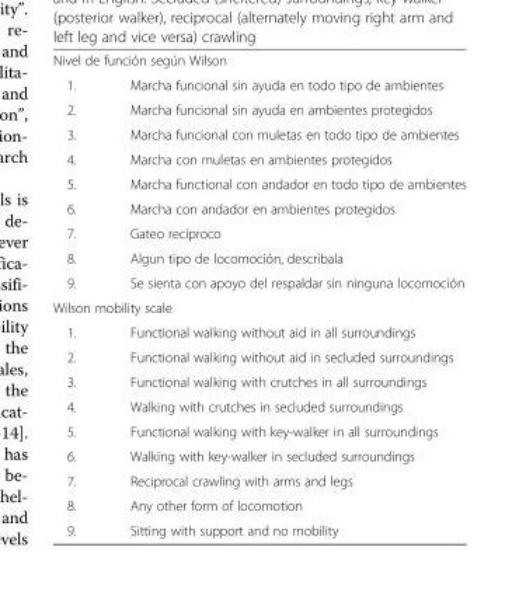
<table><tbody><tr><td colspan="2">Nivel de función según Wilson</td></tr><tr><td>1.</td><td>Marcha funcional sin ayuda en todo tipo de ambientes</td></tr><tr><td>2.</td><td>Marcha funcional sin ayuda en ambientes protegidos</td></tr><tr><td>3.</td><td>Marcha funcional con muletas en todo tipo de ambientes</td></tr><tr><td>4.</td><td>Marcha con muletas en ambientes protegidos</td></tr><tr><td>5.</td><td>Marcha functional con andador en todo tipo de ambientes</td></tr><tr><td>6.</td><td>Marcha con andador en ambientes protegidos</td></tr><tr><td>7.</td><td>Gateo recíproco</td></tr><tr><td>8.</td><td>Algun tipo de locomoción, describala</td></tr><tr><td>9.</td><td>Se sienta con apoyo del respaldar sin ninguna locomoción</td></tr><tr><td colspan="2">Wilson mobility scale</td></tr><tr><td>1.</td><td>Functional walking without aid in all surroundings</td></tr><tr><td>2.</td><td>Functional walking without aid in secluded surroundings</td></tr><tr><td>3.</td><td>Functional walking with crutches in all surroundings</td></tr><tr><td>4.</td><td>Walking with crutches in secluded surroundings</td></tr><tr><td>5.</td><td>Functional walking with key-walker in all surroundings</td></tr><tr><td>6.</td><td>Walking with key-walker in secluded surroundings</td></tr><tr><td>7.</td><td>Reciprocal crawling with arms and legs</td></tr><tr><td>8.</td><td>Any other form of locomotion</td></tr><tr><td>9.</td><td>Sitting with support and no mobility</td></tr></tbody></table>